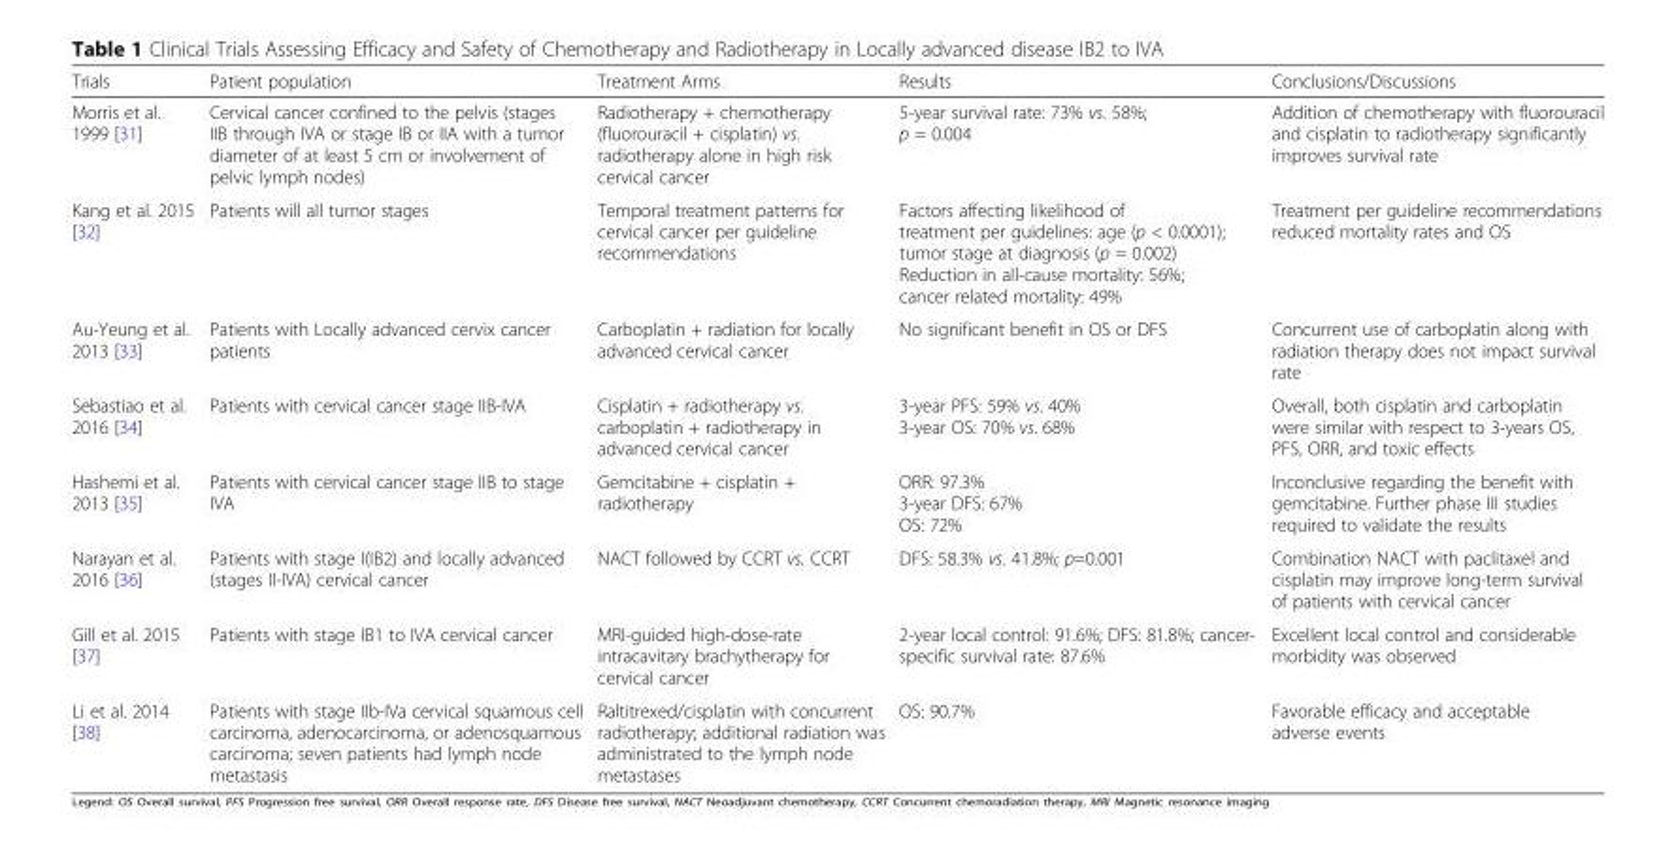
<table><thead><tr><td>Trials</td><td>Patient population</td><td>Treatment Arms</td><td>Results</td><td>Conclusions/Discussions</td></tr></thead><tbody><tr><td>Morris et al. 1999 [31]</td><td>Cervical cancer confined to the pelvis (stages IIB through IVA or stage IB or IIA with a tumor diameter of at least 5 cm or involvement of pelvic lymph nodes)</td><td>Radiotherapy + chemotherapy (fluorouracil + cisplatin) vs. radiotherapy alone in high risk cervical cancer</td><td>5-year survival rate: 73% vs. 58%; p = 0.004</td><td>Addition of chemotherapy with fluorouracil and cisplatin to radiotherapy significantly improves survival rate</td></tr><tr><td>Kang et al. 2015 [32]</td><td>Patients will all tumor stages</td><td>Temporal treatment patterns for cervical cancer per guideline recommendations</td><td>Factors affecting likelihood of treatment per guidelines: age (p &lt; 0.0001); tumor stage at diagnosis (p = 0.002) Reduction in all‑cause mortality: 56%; cancer related mortality: 49%</td><td>Treatment per guideline recommendations reduced mortality rates and OS</td></tr><tr><td>Au-Yeung et al. 2013 [33]</td><td>Patients with Locally advanced cervix cancer patients</td><td>Carboplatin + radiation for locally advanced cervical cancer</td><td>No significant benefit in OS or DFS</td><td>Concurrent use of carboplatin along with radiation therapy does not impact survival rate</td></tr><tr><td>Sebastiao et al. 2016 [34]</td><td>Patients with cervical cancer stage IIB-IVA</td><td>Cisplatin + radiotherapy vs. carboplatin + radiotherapy in advanced cervical cancer</td><td>3-year PFS: 59% vs. 40% 3-year OS: 70% vs. 68%</td><td>Overall, both cisplatin and carboplatin were similar with respect to 3-years OS, PFS, ORR, and toxic effects</td></tr><tr><td>Hashemi et al. 2013 [35]</td><td>Patients with cervical cancer stage IIB to stage IVA</td><td>Gemcitabine + cisplatin + radiotherapy</td><td>ORR: 97.3% 3-year DFS: 67% OS: 72%</td><td>Inconclusive regarding the benefit with gemcitabine. Further phase III studies required to validate the results</td></tr><tr><td>Narayan et al. 2016 [36]</td><td>Patients with stage I(IB2) and locally advanced (stages II-IVA) cervical cancer</td><td>NACT followed by CCRT vs. CCRT</td><td>DFS: 58.3% vs. 41.8%; p=0.001</td><td>Combination NACT with paclitaxel and cisplatin may improve long-term survival of patients with cervical cancer</td></tr><tr><td>Gill et al. 2015 [37]</td><td>Patients with stage IB1 to IVA cervical cancer</td><td>MRI-guided high-dose-rate intracavitary brachytherapy for cervical cancer</td><td>2-year local control: 91.6%; DFS: 81.8%; cancer- specific survival rate: 87.6%</td><td>Excellent local control and considerable morbidity was observed</td></tr><tr><td>Li et al. 2014 [38]</td><td>Patients with stage IIb-IVa cervical squamous cell carcinoma, adenocarcinoma, or adenosquamous carcinoma; seven patients had lymph node metastasis</td><td>Raltitrexed/cisplatin with concurrent radiotherapy; additional radiation was administrated to the lymph node metastases</td><td>OS: 90.7%</td><td>Favorable efficacy and acceptable adverse events</td></tr></tbody></table>